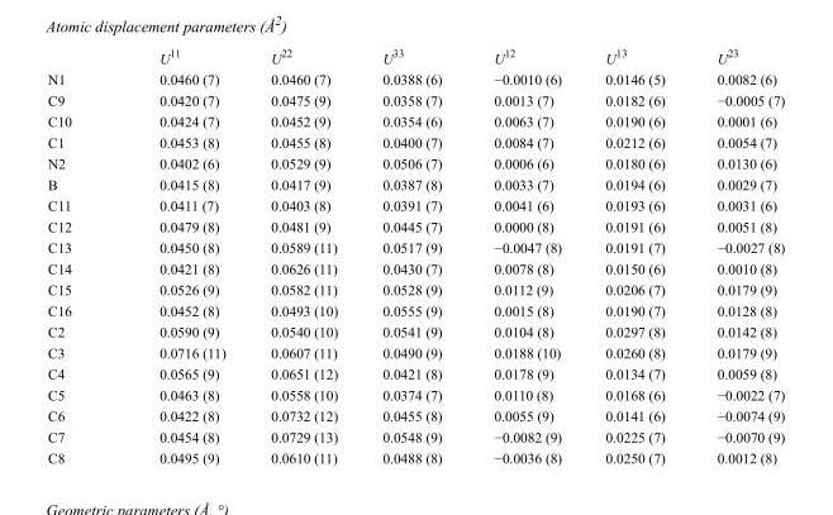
<table><thead><tr><td></td><td>U<sup>11</sup></td><td>U<sup>22</sup></td><td>U<sup>33</sup></td><td>U<sup>12</sup></td><td>U<sup>13</sup></td><td>U<sup>23</sup></td></tr></thead><tbody><tr><td>N1</td><td>0.0460 (7)</td><td>0.0460 (7)</td><td>0.0388 (6)</td><td>−0.0010 (6)</td><td>0.0146 (5)</td><td>0.0082 (6)</td></tr><tr><td>C9</td><td>0.0420 (7)</td><td>0.0475 (9)</td><td>0.0358 (7)</td><td>0.0013 (7)</td><td>0.0182 (6)</td><td>−0.0005 (7)</td></tr><tr><td>C10</td><td>0.0424 (7)</td><td>0.0452 (9)</td><td>0.0354 (6)</td><td>0.0063 (7)</td><td>0.0190 (6)</td><td>0.0001 (6)</td></tr><tr><td>C1</td><td>0.0453 (8)</td><td>0.0455 (8)</td><td>0.0400 (7)</td><td>0.0084 (7)</td><td>0.0212 (6)</td><td>0.0054 (7)</td></tr><tr><td>N2</td><td>0.0402 (6)</td><td>0.0529 (9)</td><td>0.0506 (7)</td><td>0.0006 (6)</td><td>0.0180 (6)</td><td>0.0130 (6)</td></tr><tr><td>B</td><td>0.0415 (8)</td><td>0.0417 (9)</td><td>0.0387 (8)</td><td>0.0033 (7)</td><td>0.0194 (6)</td><td>0.0029 (7)</td></tr><tr><td>C11</td><td>0.0411 (7)</td><td>0.0403 (8)</td><td>0.0391 (7)</td><td>0.0041 (6)</td><td>0.0193 (6)</td><td>0.0031 (6)</td></tr><tr><td>C12</td><td>0.0479 (8)</td><td>0.0481 (9)</td><td>0.0445 (7)</td><td>0.0000 (8)</td><td>0.0191 (6)</td><td>0.0051 (8)</td></tr><tr><td>C13</td><td>0.0450 (8)</td><td>0.0589 (11)</td><td>0.0517 (9)</td><td>−0.0047 (8)</td><td>0.0191 (7)</td><td>−0.0027 (8)</td></tr><tr><td>C14</td><td>0.0421 (8)</td><td>0.0626 (11)</td><td>0.0430 (7)</td><td>0.0078 (8)</td><td>0.0150 (6)</td><td>0.0010 (8)</td></tr><tr><td>C15</td><td>0.0526 (9)</td><td>0.0582 (11)</td><td>0.0528 (9)</td><td>0.0112 (9)</td><td>0.0206 (7)</td><td>0.0179 (9)</td></tr><tr><td>C16</td><td>0.0452 (8)</td><td>0.0493 (10)</td><td>0.0555 (9)</td><td>0.0015 (8)</td><td>0.0190 (7)</td><td>0.0128 (8)</td></tr><tr><td>C2</td><td>0.0590 (9)</td><td>0.0540 (10)</td><td>0.0541 (9)</td><td>0.0104 (8)</td><td>0.0297 (8)</td><td>0.0142 (8)</td></tr><tr><td>C3</td><td>0.0716 (11)</td><td>0.0607 (11)</td><td>0.0490 (9)</td><td>0.0188 (10)</td><td>0.0260 (8)</td><td>0.0179 (9)</td></tr><tr><td>C4</td><td>0.0565 (9)</td><td>0.0651 (12)</td><td>0.0421 (8)</td><td>0.0178 (9)</td><td>0.0134 (7)</td><td>0.0059 (8)</td></tr><tr><td>C5</td><td>0.0463 (8)</td><td>0.0558 (10)</td><td>0.0374 (7)</td><td>0.0110 (8)</td><td>0.0168 (6)</td><td>−0.0022 (7)</td></tr><tr><td>C6</td><td>0.0422 (8)</td><td>0.0732 (12)</td><td>0.0455 (8)</td><td>0.0055 (9)</td><td>0.0141 (6)</td><td>−0.0074 (9)</td></tr><tr><td>C7</td><td>0.0454 (8)</td><td>0.0729 (13)</td><td>0.0548 (9)</td><td>−0.0082 (9)</td><td>0.0225 (7)</td><td>−0.0070 (9)</td></tr><tr><td>C8</td><td>0.0495 (9)</td><td>0.0610 (11)</td><td>0.0488 (8)</td><td>−0.0036 (8)</td><td>0.0250 (7)</td><td>0.0012 (8)</td></tr></tbody></table>